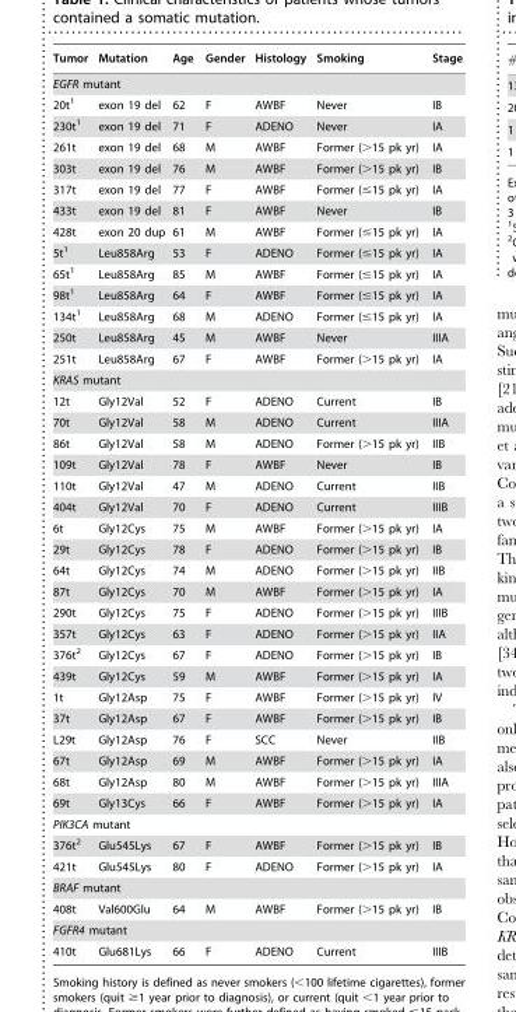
<table><thead><tr><td>Tumor</td><td>Mutation</td><td>Age</td><td>Gender</td><td>Histology</td><td>Smoking</td><td>Stage</td></tr></thead><tbody><tr><td colspan="7">EGFR mutant</td></tr><tr><td>20t<sup>1</sup></td><td>exon 19 del</td><td>62</td><td>F</td><td>AWBF</td><td>Never</td><td>IB</td></tr><tr><td>230t<sup>1</sup></td><td>exon 19 del</td><td>71</td><td>F</td><td>ADENO</td><td>Never</td><td>IA</td></tr><tr><td>261t</td><td>exon 19 del</td><td>68</td><td>M</td><td>AWBF</td><td>Former (&gt;15 pk yr)</td><td>IA</td></tr><tr><td>303t</td><td>exon 19 del</td><td>76</td><td>M</td><td>AWBF</td><td>Former (&gt;15 pk yr)</td><td>IB</td></tr><tr><td>317t</td><td>exon 19 del</td><td>77</td><td>F</td><td>AWBF</td><td>Former (≤15 pk yr)</td><td>IA</td></tr><tr><td>433t</td><td>exon 19 del</td><td>81</td><td>F</td><td>AWBF</td><td>Never</td><td>IB</td></tr><tr><td>428t</td><td>exon 20 dup</td><td>61</td><td>M</td><td>AWBF</td><td>Former (≤15 pk yr)</td><td>IA</td></tr><tr><td>5t<sup>1</sup></td><td>Leu858Arg</td><td>53</td><td>F</td><td>ADENO</td><td>Former (≤15 pk yr)</td><td>IA</td></tr><tr><td>65t<sup>1</sup></td><td>Leu858Arg</td><td>85</td><td>M</td><td>AWBF</td><td>Former (≤15 pk yr)</td><td>IA</td></tr><tr><td>98t<sup>1</sup></td><td>Leu858Arg</td><td>64</td><td>F</td><td>AWBF</td><td>Former (≤15 pk yr)</td><td>IA</td></tr><tr><td>134t<sup>1</sup></td><td>Leu858Arg</td><td>68</td><td>M</td><td>ADENO</td><td>Former (≤15 pk yr)</td><td>IA</td></tr><tr><td>250t</td><td>Leu858Arg</td><td>45</td><td>M</td><td>AWBF</td><td>Never</td><td>IIIA</td></tr><tr><td>251t</td><td>Leu858Arg</td><td>67</td><td>F</td><td>AWBF</td><td>Former (&gt;15 pk yr)</td><td>IA</td></tr><tr><td colspan="7">KRAS mutant</td></tr><tr><td>12t</td><td>Gly12Val</td><td>52</td><td>F</td><td>ADENO</td><td>Current</td><td>IB</td></tr><tr><td>70t</td><td>Gly12Val</td><td>58</td><td>M</td><td>ADENO</td><td>Current</td><td>IIIA</td></tr><tr><td>86t</td><td>Gly12Val</td><td>58</td><td>M</td><td>ADENO</td><td>Former (&gt;15 pk yr)</td><td>IIB</td></tr><tr><td>109t</td><td>Gly12Val</td><td>78</td><td>F</td><td>AWBF</td><td>Never</td><td>IB</td></tr><tr><td>110t</td><td>Gly12Val</td><td>47</td><td>M</td><td>ADENO</td><td>Current</td><td>IIB</td></tr><tr><td>404t</td><td>Gly12Val</td><td>70</td><td>F</td><td>ADENO</td><td>Current</td><td>IIIB</td></tr><tr><td>6t</td><td>Gly12Cys</td><td>75</td><td>M</td><td>AWBF</td><td>Former (&gt;15 pk yr)</td><td>IA</td></tr><tr><td>29t</td><td>Gly12Cys</td><td>78</td><td>F</td><td>ADENO</td><td>Former (&gt;15 pk yr)</td><td>IB</td></tr><tr><td>64t</td><td>Gly12Cys</td><td>74</td><td>M</td><td>ADENO</td><td>Former (&gt;15 pk yr)</td><td>IIB</td></tr><tr><td>87t</td><td>Gly12Cys</td><td>70</td><td>M</td><td>AWBF</td><td>Former (&gt;15 pk yr)</td><td>IA</td></tr><tr><td>290t</td><td>Gly12Cys</td><td>75</td><td>F</td><td>ADENO</td><td>Former (&gt;15 pk yr)</td><td>IIIB</td></tr><tr><td>357t</td><td>Gly12Cys</td><td>63</td><td>F</td><td>ADENO</td><td>Former (&gt;15 pk yr)</td><td>IIA</td></tr><tr><td>376t<sup>2</sup></td><td>Gly12Cys</td><td>67</td><td>F</td><td>ADENO</td><td>Former (&gt;15 pk yr)</td><td>IB</td></tr><tr><td>439t</td><td>Gly12Cys</td><td>59</td><td>M</td><td>AWBF</td><td>Former (&gt;15 pk yr)</td><td>IA</td></tr><tr><td>1t</td><td>Gly12Asp</td><td>75</td><td>F</td><td>AWBF</td><td>Former (&gt;15 pk yr)</td><td>IV</td></tr><tr><td>37t</td><td>Gly12Asp</td><td>67</td><td>F</td><td>AWBF</td><td>Former (&gt;15 pk yr)</td><td>IB</td></tr><tr><td>L29t</td><td>Gly12Asp</td><td>76</td><td>F</td><td>SCC</td><td>Never</td><td>IIB</td></tr><tr><td>67t</td><td>Gly12Asp</td><td>69</td><td>M</td><td>AWBF</td><td>Former (&gt;15 pk yr)</td><td>IA</td></tr><tr><td>68t</td><td>Gly12Asp</td><td>80</td><td>M</td><td>AWBF</td><td>Former (&gt;15 pk yr)</td><td>IIIA</td></tr><tr><td>69t</td><td>Gly13Cys</td><td>66</td><td>F</td><td>AWBF</td><td>Former (&gt;15 pk yr)</td><td>IA</td></tr><tr><td colspan="7">PIK3CA mutant</td></tr><tr><td>376t<sup>2</sup></td><td>Glu545Lys</td><td>67</td><td>F</td><td>AWBF</td><td>Former (&gt;15 pk yr)</td><td>IB</td></tr><tr><td>421t</td><td>Glu545Lys</td><td>80</td><td>F</td><td>ADENO</td><td>Former (&gt;15 pk yr)</td><td>IA</td></tr><tr><td colspan="7">BRAF mutant</td></tr><tr><td>408t</td><td>Val600Glu</td><td>64</td><td>M</td><td>AWBF</td><td>Former (&gt;15 pk yr)</td><td>IB</td></tr><tr><td colspan="7">FGFR4 mutant</td></tr><tr><td>410t</td><td>Glu681Lys</td><td>66</td><td>F</td><td>ADENO</td><td>Current</td><td>IIIB</td></tr></tbody></table>